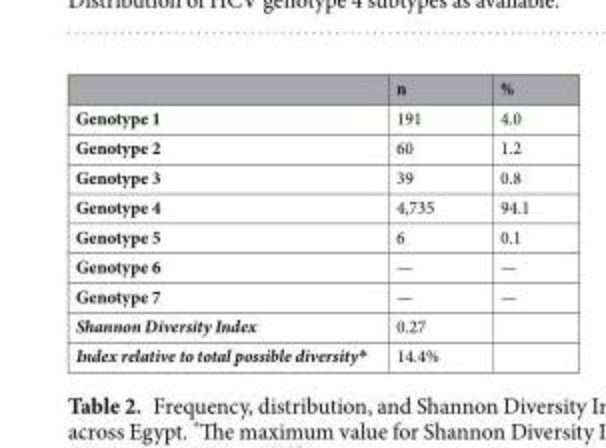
<table><thead><tr><td></td><td>n</td><td>%</td></tr></thead><tbody><tr><td>Genotype 1</td><td>191</td><td>4.0</td></tr><tr><td>Genotype 2</td><td>60</td><td>1.2</td></tr><tr><td>Genotype 3</td><td>39</td><td>0.8</td></tr><tr><td>Genotype 4</td><td>4,735</td><td>94.1</td></tr><tr><td>Genotype 5</td><td>6</td><td>0.1</td></tr><tr><td>Genotype 6</td><td>—</td><td>—</td></tr><tr><td>Genotype 7</td><td>—</td><td>—</td></tr><tr><td>Shannon Diversity Index</td><td>0.27</td><td></td></tr><tr><td>Index relative to total possible diversity*</td><td>14.4%</td><td></td></tr></tbody></table>